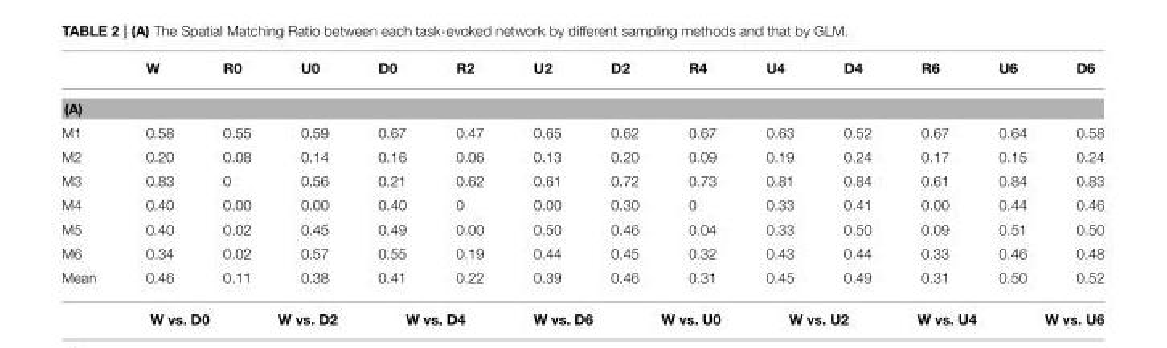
<table><thead><tr><td></td><td>W</td><td>R0</td><td>U0</td><td>D0</td><td>R2</td><td>U2</td><td>D2</td><td>R4</td><td>U4</td><td>D4</td><td>R6</td><td>U6</td><td>D6</td></tr></thead><tbody><tr><td colspan="14">(A)</td></tr><tr><td>M1</td><td>0.58</td><td>0.55</td><td>0.59</td><td>0.67</td><td>0.47</td><td>0.65</td><td>0.62</td><td>0.67</td><td>0.63</td><td>0.52</td><td>0.67</td><td>0.64</td><td>0.58</td></tr><tr><td>M2</td><td>0.20</td><td>0.08</td><td>0.14</td><td>0.16</td><td>0.06</td><td>0.13</td><td>0.20</td><td>0.09</td><td>0.19</td><td>0.24</td><td>0.17</td><td>0.15</td><td>0.24</td></tr><tr><td>M3</td><td>0.83</td><td>0</td><td>0.56</td><td>0.21</td><td>0.62</td><td>0.61</td><td>0.72</td><td>0.73</td><td>0.81</td><td>0.84</td><td>0.61</td><td>0.84</td><td>0.83</td></tr><tr><td>M4</td><td>0.40</td><td>0.00</td><td>0.00</td><td>0.40</td><td>0</td><td>0.00</td><td>0.30</td><td>0</td><td>0.33</td><td>0.41</td><td>0.00</td><td>0.44</td><td>0.46</td></tr><tr><td>M5</td><td>0.40</td><td>0.02</td><td>0.45</td><td>0.49</td><td>0.00</td><td>0.50</td><td>0.46</td><td>0.04</td><td>0.33</td><td>0.50</td><td>0.09</td><td>0.51</td><td>0.50</td></tr><tr><td>M6</td><td>0.34</td><td>0.02</td><td>0.57</td><td>0.55</td><td>0.19</td><td>0.44</td><td>0.45</td><td>0.32</td><td>0.43</td><td>0.44</td><td>0.33</td><td>0.46</td><td>0.48</td></tr><tr><td>Mean</td><td>0.46</td><td>0.11</td><td>0.38</td><td>0.41</td><td>0.22</td><td>0.39</td><td>0.46</td><td>0.31</td><td>0.45</td><td>0.49</td><td>0.31</td><td>0.50</td><td>0.52</td></tr></tbody></table>